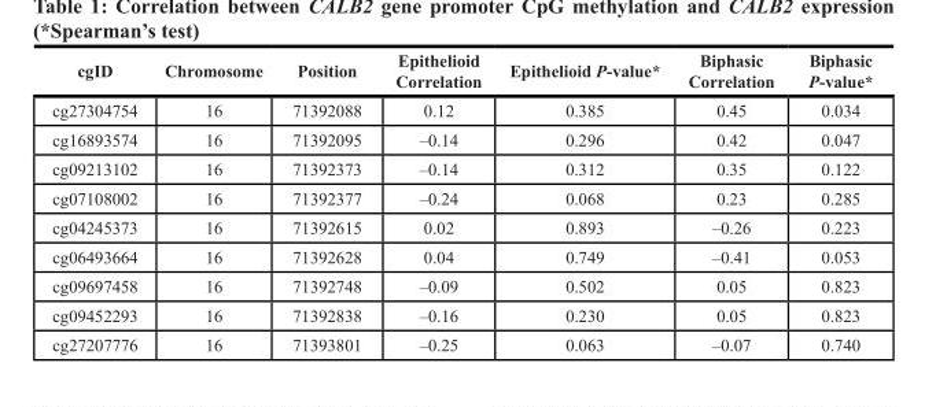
<table><thead><tr><td>cgID</td><td>Chromosome</td><td>Position</td><td>Epithelioid Correlation</td><td>Epithelioid P-value*</td><td>Biphasic Correlation</td><td>Biphasic P-value*</td></tr></thead><tbody><tr><td>cg27304754</td><td>16</td><td>71392088</td><td>0.12</td><td>0.385</td><td>0.45</td><td>0.034</td></tr><tr><td>cg16893574</td><td>16</td><td>71392095</td><td>–0.14</td><td>0.296</td><td>0.42</td><td>0.047</td></tr><tr><td>cg09213102</td><td>16</td><td>71392373</td><td>–0.14</td><td>0.312</td><td>0.35</td><td>0.122</td></tr><tr><td>cg07108002</td><td>16</td><td>71392377</td><td>–0.24</td><td>0.068</td><td>0.23</td><td>0.285</td></tr><tr><td>cg04245373</td><td>16</td><td>71392615</td><td>0.02</td><td>0.893</td><td>–0.26</td><td>0.223</td></tr><tr><td>cg06493664</td><td>16</td><td>71392628</td><td>0.04</td><td>0.749</td><td>–0.41</td><td>0.053</td></tr><tr><td>cg09697458</td><td>16</td><td>71392748</td><td>–0.09</td><td>0.502</td><td>0.05</td><td>0.823</td></tr><tr><td>cg09452293</td><td>16</td><td>71392838</td><td>–0.16</td><td>0.230</td><td>0.05</td><td>0.823</td></tr><tr><td>cg27207776</td><td>16</td><td>71393801</td><td>–0.25</td><td>0.063</td><td>–0.07</td><td>0.740</td></tr></tbody></table>